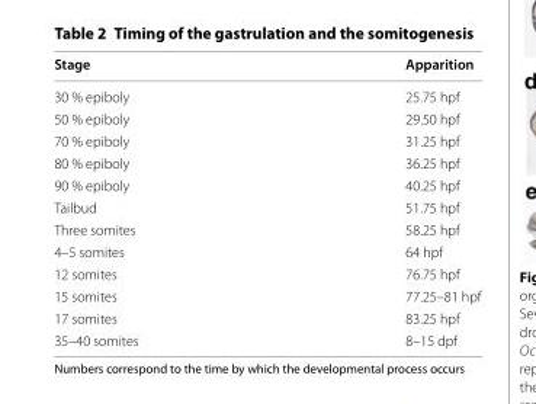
<table><thead><tr><td>Stage</td><td>Apparition</td></tr></thead><tbody><tr><td>30 % epiboly</td><td>25.75 hpf</td></tr><tr><td>50 % epiboly</td><td>29.50 hpf</td></tr><tr><td>70 % epiboly</td><td>31.25 hpf</td></tr><tr><td>80 % epiboly</td><td>36.25 hpf</td></tr><tr><td>90 % epiboly</td><td>40.25 hpf</td></tr><tr><td>Tailbud</td><td>51.75 hpf</td></tr><tr><td>Three somites</td><td>58.25 hpf</td></tr><tr><td>4–5 somites</td><td>64 hpf</td></tr><tr><td>12 somites</td><td>76.75 hpf</td></tr><tr><td>15 somites</td><td>77.25–81 hpf</td></tr><tr><td>17 somites</td><td>83.25 hpf</td></tr><tr><td>35–40 somites</td><td>8–15 dpf</td></tr></tbody></table>